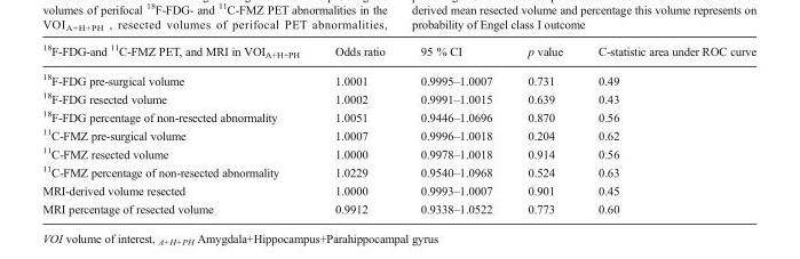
<table><thead><tr><td><sup>18</sup>F-FDG-and <sup>11</sup>C-FMZ PET, and MRI in VOI<sub>A+H+PH</sub></td><td>Odds ratio</td><td>95 % CI</td><td>p value</td><td>C-statistic area under ROC curve</td></tr></thead><tbody><tr><td><sup>18</sup>F-FDG pre-surgical volume</td><td>1.0001</td><td>0.9995–1.0007</td><td>0.731</td><td>0.49</td></tr><tr><td><sup>18</sup>F-FDG resected volume</td><td>1.0002</td><td>0.9991–1.0015</td><td>0.639</td><td>0.43</td></tr><tr><td><sup>18</sup>F-FDG percentage of non-resected abnormality</td><td>1.0051</td><td>0.9446–1.0696</td><td>0.870</td><td>0.56</td></tr><tr><td><sup>11</sup>C-FMZ pre-surgical volume</td><td>1.0007</td><td>0.9996–1.0018</td><td>0.204</td><td>0.62</td></tr><tr><td><sup>11</sup>C-FMZ resected volume</td><td>1.0000</td><td>0.9978–1.0018</td><td>0.914</td><td>0.56</td></tr><tr><td><sup>11</sup>C-FMZ percentage of non-resected abnormality</td><td>1.0229</td><td>0.9540–1.0968</td><td>0.524</td><td>0.63</td></tr><tr><td>MRI-derived volume resected</td><td>1.0000</td><td>0.9993–1.0007</td><td>0.901</td><td>0.45</td></tr><tr><td>MRI percentage of resected volume</td><td>0.9912</td><td>0.9338–1.0522</td><td>0.773</td><td>0.60</td></tr></tbody></table>